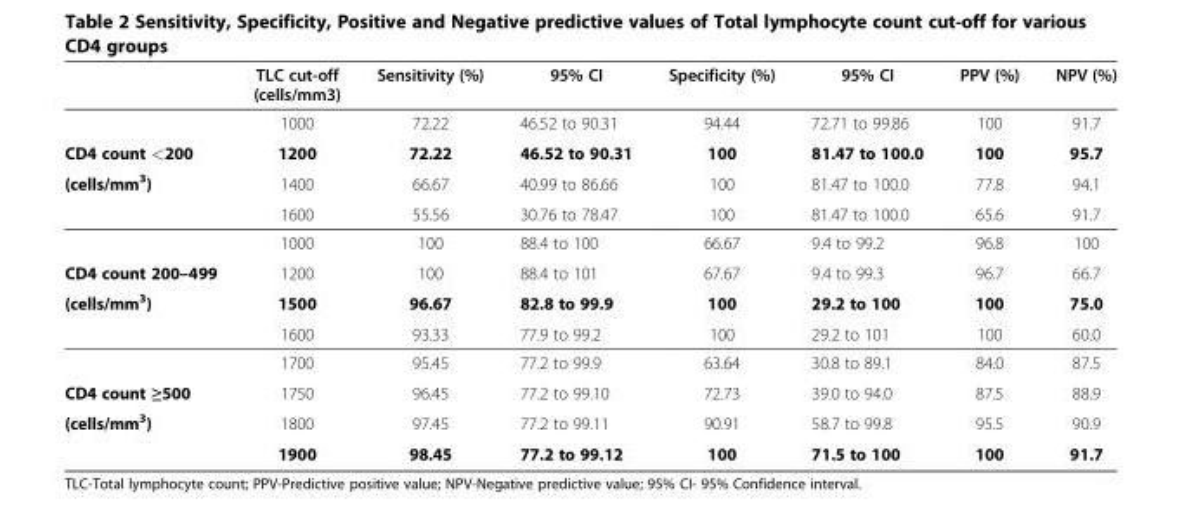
<table><thead><tr><td></td><td>TLC cut-off (cells/mm3)</td><td>Sensitivity (%)</td><td>95% CI</td><td>Specificity (%)</td><td>95% CI</td><td>PPV (%)</td><td>NPV (%)</td></tr></thead><tbody><tr><td></td><td>1000</td><td>72.22</td><td>46.52 to 90.31</td><td>94.44</td><td>72.71 to 99.86</td><td>100</td><td>91.7</td></tr><tr><td>CD4 count &lt;200</td><td>1200</td><td>72.22</td><td>46.52 to 90.31</td><td>100</td><td>81.47 to 100.0</td><td>100</td><td>95.7</td></tr><tr><td rowspan="3">(cells/mm<sup>3</sup>)</td><td>1400</td><td>66.67</td><td>40.99 to 86.66</td><td>100</td><td>81.47 to 100.0</td><td>77.8</td><td>94.1</td></tr><tr><td>1600</td><td>55.56</td><td>30.76 to 78.47</td><td>100</td><td>81.47 to 100.0</td><td>65.6</td><td>91.7</td></tr><tr><td>1000</td><td>100</td><td>88.4 to 100</td><td>66.67</td><td>9.4 to 99.2</td><td>96.8</td><td>100</td></tr><tr><td>CD4 count 200–499</td><td>1200</td><td>100</td><td>88.4 to 101</td><td>67.67</td><td>9.4 to 99.3</td><td>96.7</td><td>66.7</td></tr><tr><td rowspan="3">(cells/mm<sup>3</sup>)</td><td>1500</td><td>96.67</td><td>82.8 to 99.9</td><td>100</td><td>29.2 to 100</td><td>100</td><td>75.0</td></tr><tr><td>1600</td><td>93.33</td><td>77.9 to 99.2</td><td>100</td><td>29.2 to 101</td><td>100</td><td>60.0</td></tr><tr><td>1700</td><td>95.45</td><td>77.2 to 99.9</td><td>63.64</td><td>30.8 to 89.1</td><td>84.0</td><td>87.5</td></tr><tr><td>CD4 count ≥500</td><td>1750</td><td>96.45</td><td>77.2 to 99.10</td><td>72.73</td><td>39.0 to 94.0</td><td>87.5</td><td>88.9</td></tr><tr><td rowspan="2">(cells/mm<sup>3</sup>)</td><td>1800</td><td>97.45</td><td>77.2 to 99.11</td><td>90.91</td><td>58.7 to 99.8</td><td>95.5</td><td>90.9</td></tr><tr><td>1900</td><td>98.45</td><td>77.2 to 99.12</td><td>100</td><td>71.5 to 100</td><td>100</td><td>91.7</td></tr></tbody></table>